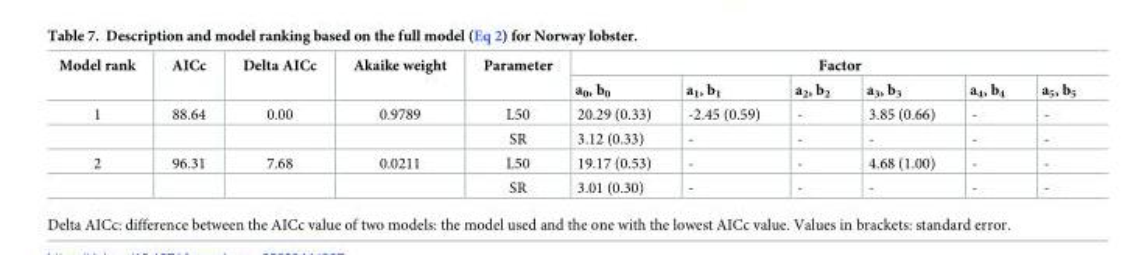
<table><thead><tr><td rowspan="2">Model rank</td><td rowspan="2">AICc</td><td rowspan="2">Delta AICc</td><td rowspan="2">Akaike weight</td><td rowspan="2">Parameter</td><td colspan="6">Factor</td></tr><tr><td>a<sub>0</sub>, b<sub>0</sub></td><td>a<sub>1</sub>, b<sub>1</sub></td><td>a<sub>2</sub>, b<sub>2</sub></td><td>a<sub>3</sub>, b<sub>3</sub></td><td>a<sub>4</sub>, b<sub>4</sub></td><td>a<sub>5</sub>, b<sub>5</sub></td></tr></thead><tbody><tr><td rowspan="2">1</td><td>88.64</td><td>0.00</td><td>0.9789</td><td>L50</td><td>20.29 (0.33)</td><td>-2.45 (0.59)</td><td>-</td><td>3.85 (0.66)</td><td>-</td><td>-</td></tr><tr><td></td><td></td><td></td><td>SR</td><td>3.12 (0.33)</td><td>-</td><td>-</td><td>-</td><td>-</td><td>-</td></tr><tr><td rowspan="2">2</td><td>96.31</td><td>7.68</td><td>0.0211</td><td>L50</td><td>19.17 (0.53)</td><td>-</td><td>-</td><td>4.68 (1.00)</td><td>-</td><td>-</td></tr><tr><td></td><td></td><td></td><td>SR</td><td>3.01 (0.30)</td><td>-</td><td>-</td><td>-</td><td>-</td><td>-</td></tr></tbody></table>